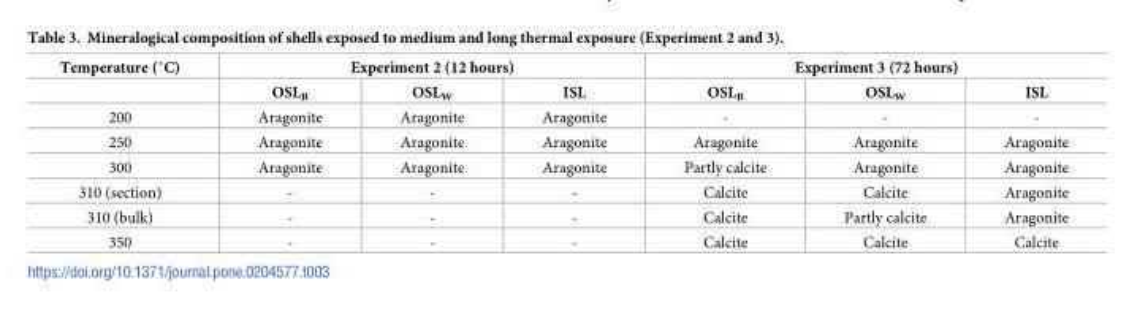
<table><thead><tr><td rowspan="2">Temperature (˚C)</td><td colspan="3">Experiment 2 (12 hours)</td><td colspan="3">Experiment 3 (72 hours)</td></tr><tr><td>OSL<sub>B</sub></td><td>OSL<sub>W</sub></td><td>ISL</td><td>OSL<sub>B</sub></td><td>OSL<sub>W</sub></td><td>ISL</td></tr></thead><tbody><tr><td>200</td><td>Aragonite</td><td>Aragonite</td><td>Aragonite</td><td>-</td><td>-</td><td>-</td></tr><tr><td>250</td><td>Aragonite</td><td>Aragonite</td><td>Aragonite</td><td>Aragonite</td><td>Aragonite</td><td>Aragonite</td></tr><tr><td>300</td><td>Aragonite</td><td>Aragonite</td><td>Aragonite</td><td>Partly calcite</td><td>Aragonite</td><td>Aragonite</td></tr><tr><td>310 (section)</td><td>-</td><td>-</td><td>-</td><td>Calcite</td><td>Calcite</td><td>Aragonite</td></tr><tr><td>310 (bulk)</td><td>-</td><td>-</td><td>-</td><td>Calcite</td><td>Partly calcite</td><td>Aragonite</td></tr><tr><td>350</td><td>-</td><td>-</td><td>-</td><td>Calcite</td><td>Calcite</td><td>Calcite</td></tr></tbody></table>